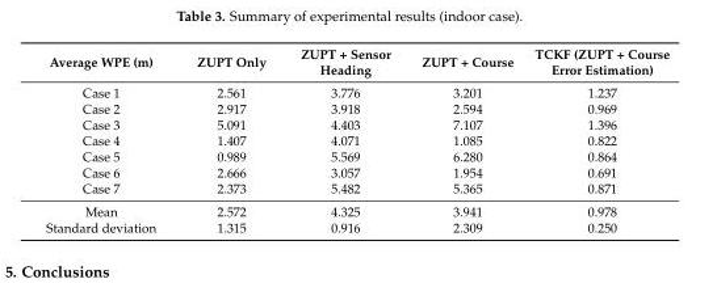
<table><thead><tr><td>Average WPE (m)</td><td>ZUPT Only</td><td>ZUPT + Sensor Heading</td><td>ZUPT + Course</td><td>TCKF (ZUPT + Course Error Estimation)</td></tr></thead><tbody><tr><td>Case 1</td><td>2.561</td><td>3.776</td><td>3.201</td><td>1.237</td></tr><tr><td>Case 2</td><td>2.917</td><td>3.918</td><td>2.594</td><td>0.969</td></tr><tr><td>Case 3</td><td>5.091</td><td>4.403</td><td>7.107</td><td>1.396</td></tr><tr><td>Case 4</td><td>1.407</td><td>4.071</td><td>1.085</td><td>0.822</td></tr><tr><td>Case 5</td><td>0.989</td><td>5.569</td><td>6.280</td><td>0.864</td></tr><tr><td>Case 6</td><td>2.666</td><td>3.057</td><td>1.954</td><td>0.691</td></tr><tr><td>Case 7</td><td>2.373</td><td>5.482</td><td>5.365</td><td>0.871</td></tr><tr><td>Mean</td><td>2.572</td><td>4.325</td><td>3.941</td><td>0.978</td></tr><tr><td>Standard deviation</td><td>1.315</td><td>0.916</td><td>2.309</td><td>0.250</td></tr></tbody></table>